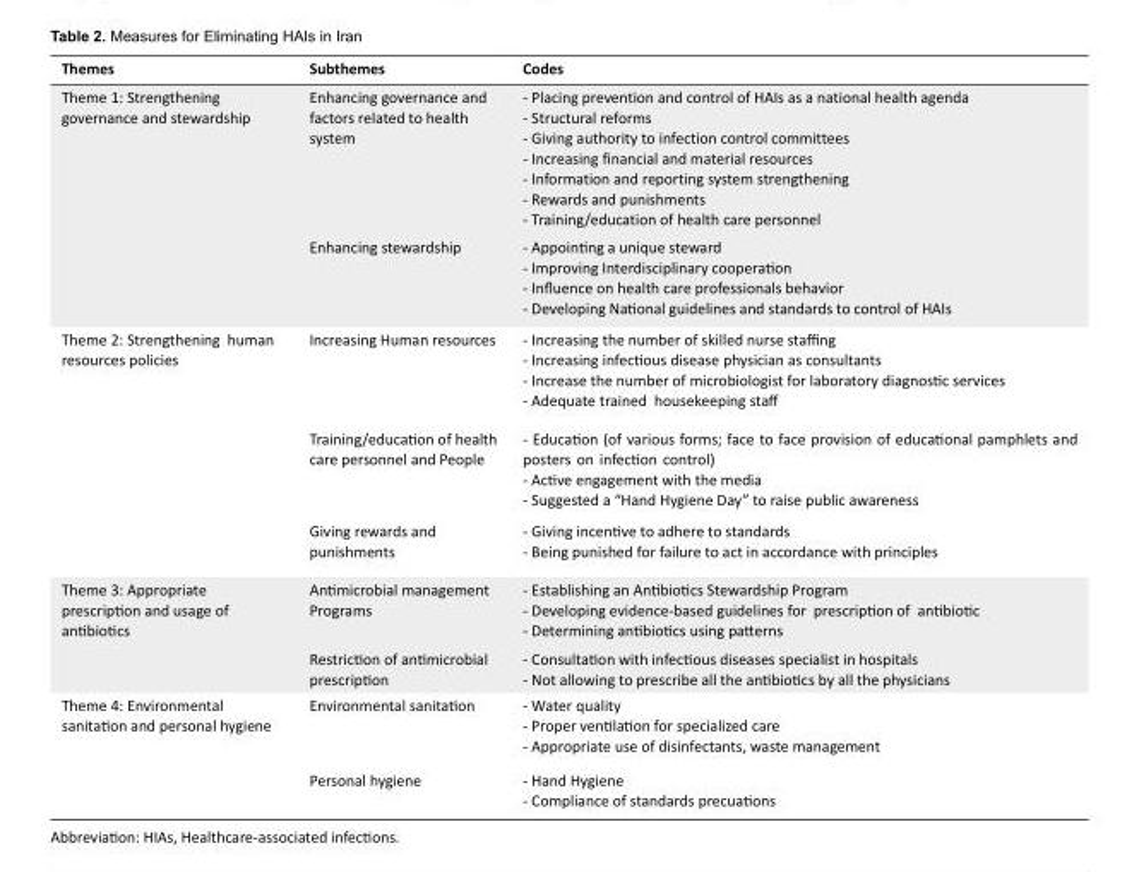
<table><tbody><tr><td>Themes</td><td>Subthemes</td><td>Codes</td></tr><tr><td rowspan="2">Theme 1: Strengthening governance and stewardship</td><td>Enhancing governance and factors related to health system</td><td>- Placing prevention and control of HAIs as a national health agenda - Structural reforms - Giving authority to infection control committees - Increasing financial and material resources - Information and reporting system strengthening - Rewards and punishments - Training/education of health care personnel</td></tr><tr><td>Enhancing stewardship</td><td>- Appointing a unique steward - Improving Interdisciplinary cooperation - Influence on health care professionals behavior - Developing National guidelines and standards to control of HAIs</td></tr><tr><td rowspan="3">Theme 2: Strengthening human resources policies</td><td>Increasing Human resources</td><td>- Increasing the number of skilled nurse staffing - Increasing infectious disease physician as consultants - Increase the number of microbiologist for laboratory diagnostic services - Adequate trained housekeeping staff</td></tr><tr><td>Training/education of health care personnel and People</td><td>- Education (of various forms; face to face provision of educational pamphlets and posters on infection control) - Active engagement with the media - Suggested a “Hand Hygiene Day” to raise public awareness</td></tr><tr><td>Giving rewards and punishments</td><td>- Giving incentive to adhere to standards - Being punished for failure to act in accordance with principles</td></tr><tr><td rowspan="2">Theme 3: Appropriate prescription and usage of antibiotics</td><td>Antimicrobial management Programs</td><td>- Establishing an Antibiotics Stewardship Program - Developing evidence-based guidelines for prescription of antibiotic - Determining antibiotics using patterns</td></tr><tr><td>Restriction of antimicrobial prescription</td><td>- Consultation with infectious diseases specialist in hospitals - Not allowing to prescribe all the antibiotics by all the physicians</td></tr><tr><td rowspan="2">Theme 4: Environmental sanitation and personal hygiene</td><td>Environmental sanitation</td><td>- Water quality - Proper ventilation for specialized care - Appropriate use of disinfectants, waste management</td></tr><tr><td>Personal hygiene</td><td>- Hand Hygiene - Compliance of standards precuations</td></tr></tbody></table>